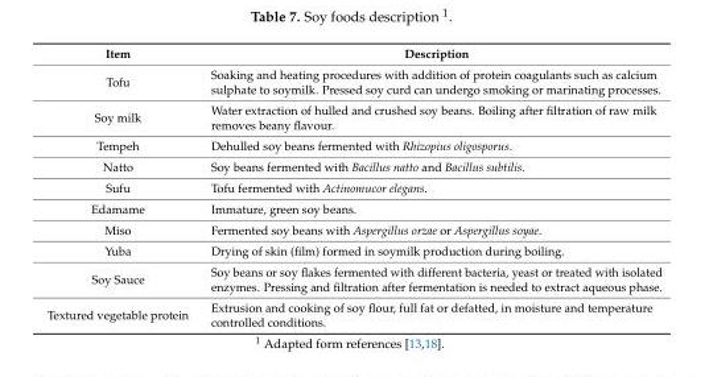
<table><thead><tr><td>Item</td><td>Description</td></tr></thead><tbody><tr><td>Tofu</td><td>Soaking and heating procedures with addition of protein coagulants such as calcium sulphate to soymilk. Pressed soy curd can undergo smoking or marinating processes.</td></tr><tr><td>Soy milk</td><td>Water extraction of hulled and crushed soy beans. Boiling after filtration of raw milk removes beany flavour.</td></tr><tr><td>Tempeh</td><td>Dehulled soy beans fermented with Rhizopius oligosporus.</td></tr><tr><td>Natto</td><td>Soy beans fermented with Bacillus natto and Bacillus subtilis.</td></tr><tr><td>Sufu</td><td>Tofu fermented with Actinomucor elegans.</td></tr><tr><td>Edamame</td><td>Immature, green soy beans.</td></tr><tr><td>Miso</td><td>Fermented soy beans with Aspergillus orzae or Aspergillus soyae.</td></tr><tr><td>Yuba</td><td>Drying of skin (film) formed in soymilk production during boiling.</td></tr><tr><td>Soy Sauce</td><td>Soy beans or soy flakes fermented with different bacteria, yeast or treated with isolated enzymes. Pressing and filtration after fermentation is needed to extract aqueous phase.</td></tr><tr><td>Textured vegetable protein</td><td>Extrusion and cooking of soy flour, full fat or defatted, in moisture and temperature controlled conditions.</td></tr></tbody></table>